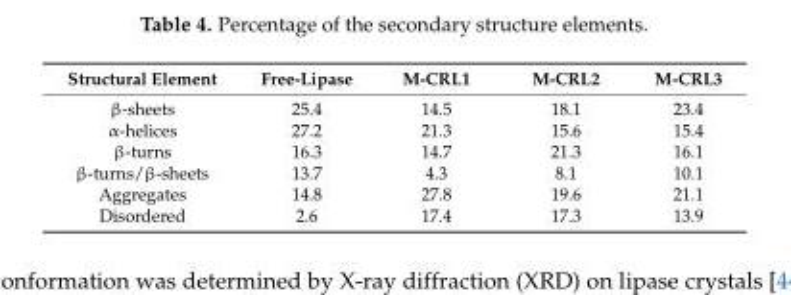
<table><thead><tr><td>Structural Element</td><td>Free-Lipase</td><td>M-CRL1</td><td>M-CRL2</td><td>M-CRL3</td></tr></thead><tbody><tr><td>β-sheets</td><td>25.4</td><td>14.5</td><td>18.1</td><td>23.4</td></tr><tr><td>α-helices</td><td>27.2</td><td>21.3</td><td>15.6</td><td>15.4</td></tr><tr><td>β-turns</td><td>16.3</td><td>14.7</td><td>21.3</td><td>16.1</td></tr><tr><td>β-turns/β-sheets</td><td>13.7</td><td>4.3</td><td>8.1</td><td>10.1</td></tr><tr><td>Aggregates</td><td>14.8</td><td>27.8</td><td>19.6</td><td>21.1</td></tr><tr><td>Disordered</td><td>2.6</td><td>17.4</td><td>17.3</td><td>13.9</td></tr></tbody></table>